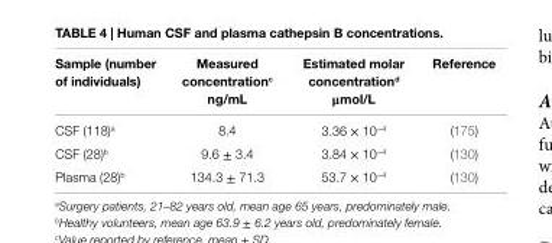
<table><thead><tr><td>Sample (number of individuals)</td><td>Measured concentration<sup>c</sup> ng/mL</td><td>estimated molar concentration<sup>d</sup> μmol/L</td><td>Reference</td></tr></thead><tbody><tr><td>CSF (118)<sup>a</sup></td><td>8.4</td><td>3.36 × 10<sup>−4</sup></td><td>(175)</td></tr><tr><td>CSF (28)<sup>b</sup></td><td>9.6 ± 3.4</td><td>3.84 × 10<sup>−4</sup></td><td>(130)</td></tr><tr><td>Plasma (28)<sup>b</sup></td><td>134.3 ± 71.3</td><td>53.7 × 10<sup>−4</sup></td><td>(130)</td></tr></tbody></table>